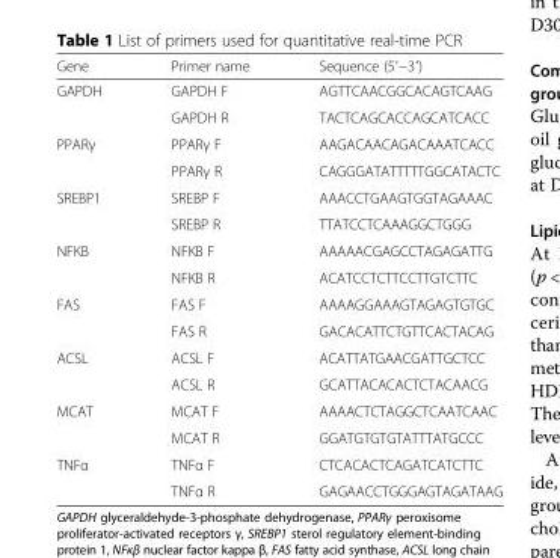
<table><thead><tr><td>Gene</td><td>Primer name</td><td>Sequence (5′−3′)</td></tr></thead><tbody><tr><td rowspan="2">GAPDH</td><td>GAPDH F</td><td>AGTTCAACGGCACAGTCAAG</td></tr><tr><td>GAPDH R</td><td>TACTCAGCACCAGCATCACC</td></tr><tr><td rowspan="2">PPARγ</td><td>PPARγ F</td><td>AAGACAACAGACAAATCACC</td></tr><tr><td>PPARγ R</td><td>CAGGGATATTTTTGGCATACTC</td></tr><tr><td rowspan="2">SREBP1</td><td>SREBP F</td><td>AAACCTGAAGTGGTAGAAAC</td></tr><tr><td>SREBP R</td><td>TTATCCTCAAAGGCTGGG</td></tr><tr><td rowspan="2">NFKB</td><td>NFKB F</td><td>AAAAACGAGCCTAGAGATTG</td></tr><tr><td>NFKB R</td><td>ACATCCTCTTCCTTGTCTTC</td></tr><tr><td rowspan="2">FAS</td><td>FAS F</td><td>AAAAGGAAAGTAGAGTGTGC</td></tr><tr><td>FAS R</td><td>GACACATTCTGTTCACTACAG</td></tr><tr><td rowspan="2">ACSL</td><td>ACSL F</td><td>ACATTATGAACGATTGCTCC</td></tr><tr><td>ACSL R</td><td>GCATTACACACTCTACAACG</td></tr><tr><td rowspan="2">MCAT</td><td>MCAT F</td><td>AAAACTCTAGGCTCAATCAAC</td></tr><tr><td>MCAT R</td><td>GGATGTGTGTATTTATGCCC</td></tr><tr><td rowspan="2">TNFα</td><td>TNFα F</td><td>CTCACACTCAGATCATCTTC</td></tr><tr><td>TNFα R</td><td>GAGAACCTGGGAGTAGATAAG</td></tr></tbody></table>